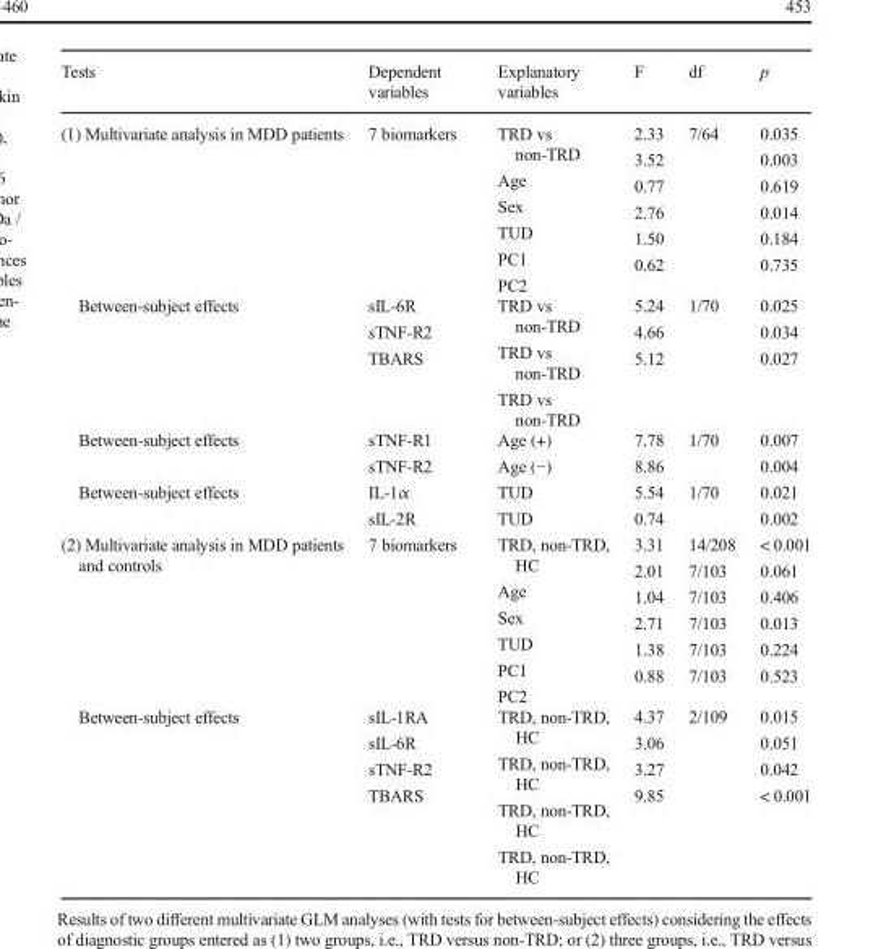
<table><thead><tr><td>Tests</td><td>Dependent variables</td><td>Explanatory variables</td><td>F</td><td>df</td><td>p</td></tr></thead><tbody><tr><td>(1) Multivariate analysis in MDD patients</td><td>7 biomarkers</td><td>TRD vs non-TRD Age Sex TUD PC1 PC2</td><td>2.33 3.52 0.77 2.76 1.50 0.62</td><td>7/64</td><td>0.035 0.003 0.619 0.014 0.184 0.735</td></tr><tr><td>Between-subject effects</td><td>sIL-6R sTNF-R2 TBARS</td><td>TRD vs non-TRD TRD vs non-TRD TRD vs non-TRD</td><td>5.24 4.66 5.12</td><td>1/70</td><td>0.025 0.034 0.027</td></tr><tr><td>Between-subject effects</td><td>sTNF-R1 sTNF-R2</td><td>Age (+) Age (−)</td><td>7.78 8.86</td><td>1/70</td><td>0.007 0.004</td></tr><tr><td>Between-subject effects</td><td>IL-1α sIL-2R</td><td>TUD TUD</td><td>5.54 0.74</td><td>1/70</td><td>0.021 0.002</td></tr><tr><td>(2) Multivariate analysis in MDD patients and controls</td><td>7 biomarkers</td><td>TRD, non-TRD, HC Age Sex TUD PC1 PC2</td><td>3.31 2.01 1.04 2.71 1.38 0.88</td><td>14/208 7/103 7/103 7/103 7/103 7/103</td><td>&lt; 0.001 0.061 0.406 0.013 0.224 0.523</td></tr><tr><td>Between-subject effects</td><td>sIL-1RA sIL-6R sTNF-R2 TBARS</td><td>TRD, non-TRD, HC TRD, non-TRD, HC TRD, non-TRD, HC TRD, non-TRD, HC</td><td>4.37 3.06 3.27 9.85</td><td>2/109</td><td>0.015 0.051 0.042 &lt; 0.001</td></tr></tbody></table>